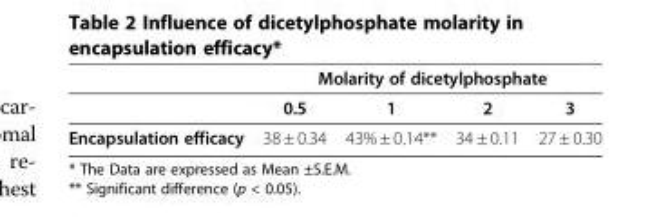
<table><thead><tr><td rowspan="2"></td><td colspan="4">Molarity of dicetylphosphate</td></tr><tr><td>0.5</td><td>1</td><td>2</td><td>3</td></tr></thead><tbody><tr><td>Encapsulation efficacy</td><td>38 ± 0.34</td><td>43% ± 0.14**</td><td>34 ± 0.11</td><td>27 ± 0.30</td></tr></tbody></table>